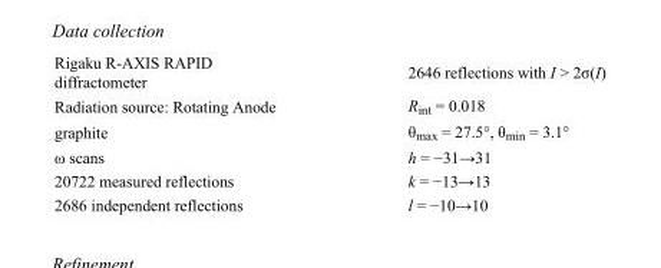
<table><tbody><tr><td>Rigaku R-AXIS RAPID diffractometer</td><td>2646 reflections with I &gt; 2σ(I)</td></tr><tr><td>Radiation source: Rotating Anode</td><td>R<sub>int</sub> = 0.018</td></tr><tr><td>graphite</td><td>θ<sub>max</sub> = 27.5°, θ<sub>min</sub> = 3.1°</td></tr><tr><td>ω scans</td><td>h = −31→31</td></tr><tr><td>20722 measured reflections</td><td>k = −13→13</td></tr><tr><td>2686 independent reflections</td><td>l = −10→10</td></tr></tbody></table>